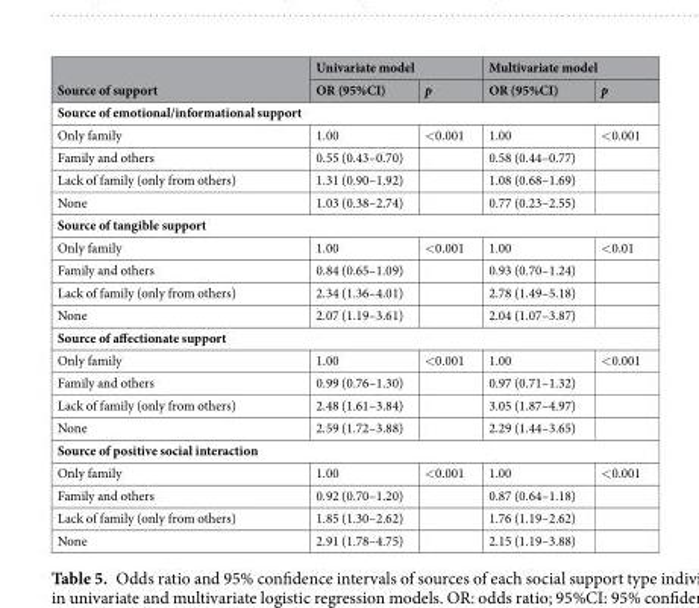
<table><thead><tr><td rowspan="2">Source of support</td><td colspan="2">Univariate model</td><td colspan="2">Multivariate model</td></tr><tr><td>OR (95%CI)</td><td>p</td><td>OR (95%CI)</td><td>p</td></tr></thead><tbody><tr><td colspan="5">Source of emotional/informational support</td></tr><tr><td>Only family</td><td>1.00</td><td>&lt;0.001</td><td>1.00</td><td>&lt;0.001</td></tr><tr><td>Family and others</td><td>0.55 (0.43–0.70)</td><td></td><td>0.58 (0.44–0.77)</td><td></td></tr><tr><td>Lack of family (only from others)</td><td>1.31 (0.90–1.92)</td><td></td><td>1.08 (0.68–1.69)</td><td></td></tr><tr><td>None</td><td>1.03 (0.38–2.74)</td><td></td><td>0.77 (0.23–2.55)</td><td></td></tr><tr><td colspan="5">Source of tangible support</td></tr><tr><td>Only family</td><td>1.00</td><td>&lt;0.001</td><td>1.00</td><td>&lt;0.01</td></tr><tr><td>Family and others</td><td>0.84 (0.65–1.09)</td><td></td><td>0.93 (0.70–1.24)</td><td></td></tr><tr><td>Lack of family (only from others)</td><td>2.34 (1.36–4.01)</td><td></td><td>2.78 (1.49–5.18)</td><td></td></tr><tr><td>None</td><td>2.07 (1.19–3.61)</td><td></td><td>2.04 (1.07–3.87)</td><td></td></tr><tr><td colspan="5">Source of affectionate support</td></tr><tr><td>Only family</td><td>1.00</td><td>&lt;0.001</td><td>1.00</td><td>&lt;0.001</td></tr><tr><td>Family and others</td><td>0.99 (0.76–1.30)</td><td></td><td>0.97 (0.71–1.32)</td><td></td></tr><tr><td>Lack of family (only from others)</td><td>2.48 (1.61–3.84)</td><td></td><td>3.05 (1.87–4.97)</td><td></td></tr><tr><td>None</td><td>2.59 (1.72–3.88)</td><td></td><td>2.29 (1.44–3.65)</td><td></td></tr><tr><td colspan="5">Source of positive social interaction</td></tr><tr><td>Only family</td><td>1.00</td><td>&lt;0.001</td><td>1.00</td><td>&lt;0.001</td></tr><tr><td>Family and others</td><td>0.92 (0.70–1.20)</td><td></td><td>0.87 (0.64–1.18)</td><td></td></tr><tr><td>Lack of family (only from others)</td><td>1.85 (1.30–2.62)</td><td></td><td>1.76 (1.19–2.62)</td><td></td></tr><tr><td>None</td><td>2.91 (1.78–4.75)</td><td></td><td>2.15 (1.19–3.88)</td><td></td></tr></tbody></table>